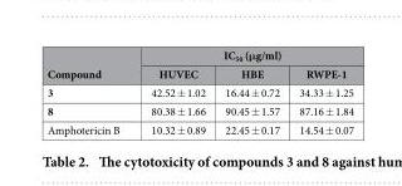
<table><thead><tr><td rowspan="2">Compound</td><td colspan="3">IC<sub>50</sub> (μg/ml)</td></tr><tr><td>HUVEC</td><td>HBE</td><td>RWPE-1</td></tr></thead><tbody><tr><td>3</td><td>42.52 ± 1.02</td><td>16.44 ± 0.72</td><td>34.33 ± 1.25</td></tr><tr><td>8</td><td>80.38 ± 1.66</td><td>90.45 ± 1.57</td><td>87.16 ± 1.84</td></tr><tr><td>Amphotericin B</td><td>10.32 ± 0.89</td><td>22.45 ± 0.17</td><td>14.54 ± 0.07</td></tr></tbody></table>